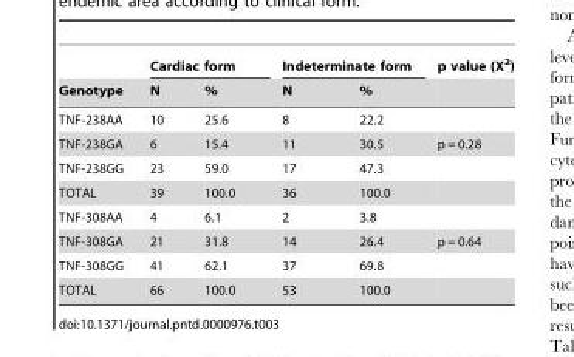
<table><thead><tr><td rowspan="2">Genotype</td><td colspan="2">Cardiac form</td><td colspan="2">Indeterminate form</td><td rowspan="2">p value (X<sup>2</sup>)</td></tr><tr><td>N</td><td>%</td><td>N</td><td>%</td></tr></thead><tbody><tr><td>TNF-238AA</td><td>10</td><td>25.6</td><td>8</td><td>22.2</td><td></td></tr><tr><td>TNF-238GA</td><td>6</td><td>15.4</td><td>11</td><td>30.5</td><td>p = 0.28</td></tr><tr><td>TNF-238GG</td><td>23</td><td>59.0</td><td>17</td><td>47.3</td><td></td></tr><tr><td>TOTAL</td><td>39</td><td>100.0</td><td>36</td><td>100.0</td><td></td></tr><tr><td>TNF-308AA</td><td>4</td><td>6.1</td><td>2</td><td>3.8</td><td></td></tr><tr><td>TNF-308GA</td><td>21</td><td>31.8</td><td>14</td><td>26.4</td><td>p = 0.64</td></tr><tr><td>TNF-308GG</td><td>41</td><td>62.1</td><td>37</td><td>69.8</td><td></td></tr><tr><td>TOTAL</td><td>66</td><td>100.0</td><td>53</td><td>100.0</td><td></td></tr></tbody></table>